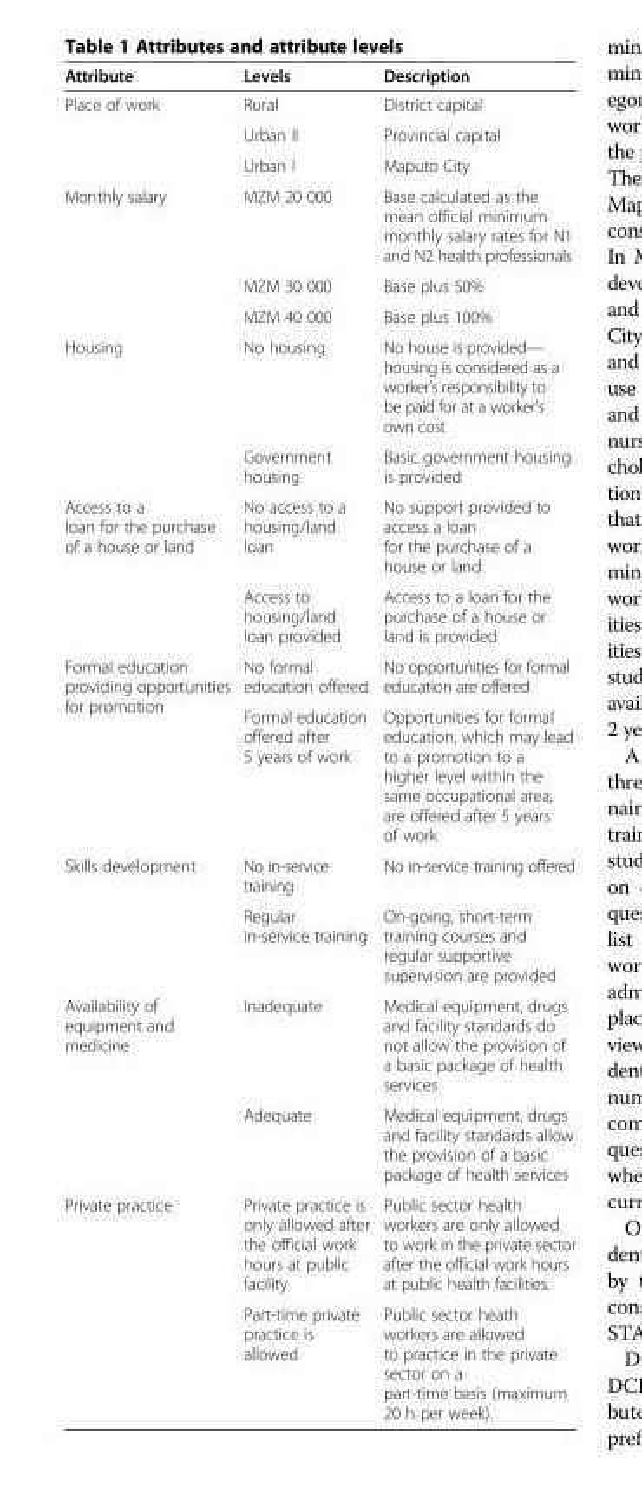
<table><thead><tr><td>Attribute</td><td>Levels</td><td>Description</td></tr></thead><tbody><tr><td rowspan="3">Place of work</td><td>Rural</td><td>District capital</td></tr><tr><td>Urban II</td><td>Provincial capital</td></tr><tr><td>Urban I</td><td>Maputo City</td></tr><tr><td rowspan="3">Monthly salary</td><td>MZM 20 000</td><td>Base calculated as the mean official minimum monthly salary rates for N1 and N2 health professionals</td></tr><tr><td>MZM 30 000</td><td>Base plus 50%</td></tr><tr><td>MZM 40 000</td><td>Base plus 100%</td></tr><tr><td rowspan="2">Housing</td><td>No housing</td><td>No house is provided— housing is considered as a worker’s responsibility to be paid for at a worker’s own cost</td></tr><tr><td>Government housing</td><td>Basic government housing is provided</td></tr><tr><td rowspan="2">Access to a loan for the purchase of a house or land</td><td>No access to a housing/land loan</td><td>No support provided to access a loan for the purchase of a house or land</td></tr><tr><td>Access to housing/land loan provided</td><td>Access to a loan for the purchase of a house or land is provided</td></tr><tr><td rowspan="2">Formal education providing opportunities for promotion</td><td>No formal education offered</td><td>No opportunities for formal education are offered</td></tr><tr><td>Formal education offered after 5 years of work</td><td>Opportunities for formal education, which may lead to a promotion to a higher level within the same occupational area, are offered after 5 years of work</td></tr><tr><td rowspan="2">Skills development</td><td>No in-service training</td><td>No in-service training offered</td></tr><tr><td>Regular in-service training</td><td>On-going, short-term training courses and regular supportive supervision are provided</td></tr><tr><td rowspan="2">Availability of equipment and medicine</td><td>Inadequate</td><td>Medical equipment, drugs and facility standards do not allow the provision of a basic package of health services</td></tr><tr><td>Adequate</td><td>Medical equipment, drugs and facility standards allow the provision of a basic package of health services</td></tr><tr><td rowspan="2">Private practice</td><td>Private practice is only allowed after the official work hours at public facility</td><td>Public sector health workers are only allowed to work in the private sector after the official work hours at public health facilities.</td></tr><tr><td>Part-time private practice is allowed</td><td>Public sector heath workers are allowed to practice in the private sector on a part-time basis (maximum 20 h per week).</td></tr></tbody></table>